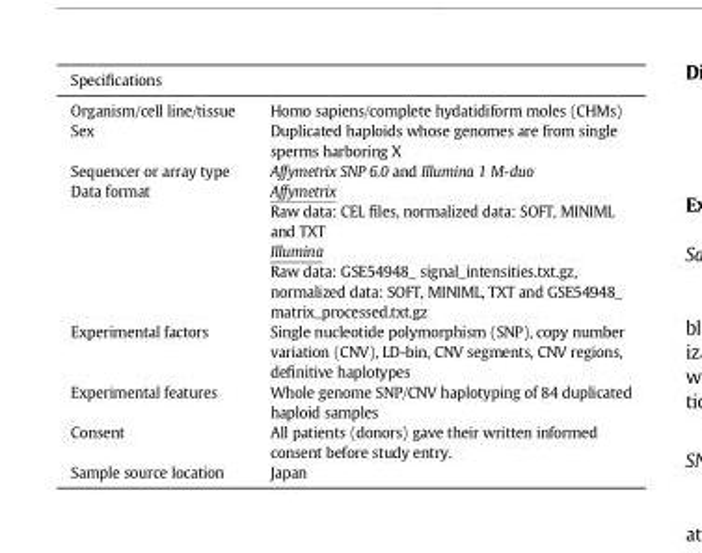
<table><thead><tr><td colspan="2">Specifications</td></tr><tr><td>Organism/cell line/tissue</td><td>Homo sapiens/complete hydatidiform moles (CHMs)</td></tr></thead><tbody><tr><td>Sex</td><td>Duplicated haploids whose genomes are from single sperms harboring X</td></tr><tr><td>Sequencer or array type</td><td>Affymetrix SNP 6.0 and Illumina 1 M-duo</td></tr><tr><td>Data format</td><td>Affymetrix Raw data: CEL files, normalized data: SOFT, MINIML and TXT Illumina Raw data: GSE54948_ signal_intensities.txt.gz, normalized data: SOFT, MINIML, TXT and GSE54948_ matrix_processed.txt.gz</td></tr><tr><td>Experimental factors</td><td>Single nucleotide polymorphism (SNP), copy number variation (CNV), LD-bin, CNV segments, CNV regions, definitive haplotypes</td></tr><tr><td>Experimental features</td><td>Whole genome SNP/CNV haplotyping of 84 duplicated haploid samples</td></tr><tr><td>Consent</td><td>All patients (donors) gave their written informed consent before study entry.</td></tr><tr><td>Sample source location</td><td>Japan</td></tr></tbody></table>